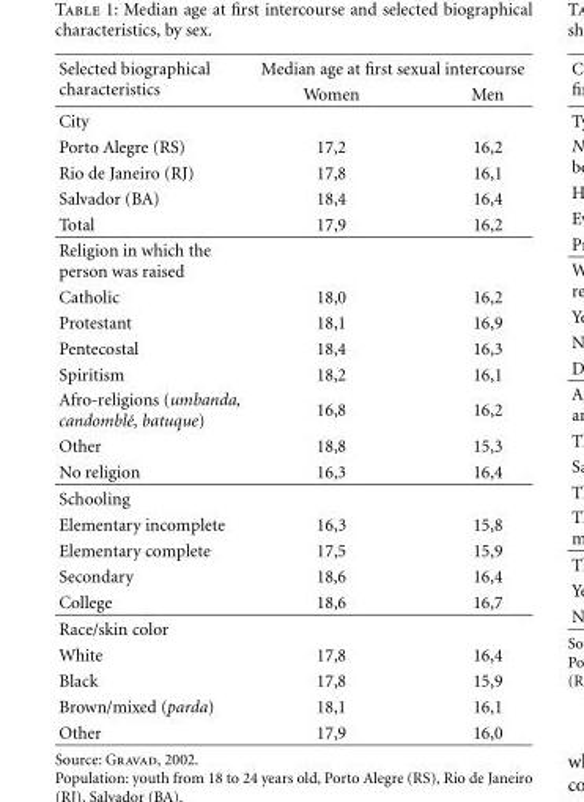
<table><thead><tr><td rowspan="2">Selected biographical characteristics</td><td colspan="2">Median age at first sexual intercourse</td></tr><tr><td>Women</td><td>Men</td></tr></thead><tbody><tr><td colspan="3">City</td></tr><tr><td>Porto Alegre (RS)</td><td>17,2</td><td>16,2</td></tr><tr><td>Rio de Janeiro (RJ)</td><td>17,8</td><td>16,1</td></tr><tr><td>Salvador (BA)</td><td>18,4</td><td>16,4</td></tr><tr><td>Total</td><td>17,9</td><td>16,2</td></tr><tr><td colspan="3">Religion in which the person was raised</td></tr><tr><td>Catholic</td><td>18,0</td><td>16,2</td></tr><tr><td>Protestant</td><td>18,1</td><td>16,9</td></tr><tr><td>Pentecostal</td><td>18,4</td><td>16,3</td></tr><tr><td>Spiritism</td><td>18,2</td><td>16,1</td></tr><tr><td>Afro-religions (umbanda, candombl´e, batuque)</td><td>16,8</td><td>16,2</td></tr><tr><td>Other</td><td>18,8</td><td>15,3</td></tr><tr><td>No religion</td><td>16,3</td><td>16,4</td></tr><tr><td colspan="3">Schooling</td></tr><tr><td>Elementary incomplete</td><td>16,3</td><td>15,8</td></tr><tr><td>Elementary complete</td><td>17,5</td><td>15,9</td></tr><tr><td>Secondary</td><td>18,6</td><td>16,4</td></tr><tr><td>College</td><td>18,6</td><td>16,7</td></tr><tr><td colspan="3">Race/skin color</td></tr><tr><td>White</td><td>17,8</td><td>16,4</td></tr><tr><td>Black</td><td>17,8</td><td>15,9</td></tr><tr><td>Brown/mixed (parda)</td><td>18,1</td><td>16,1</td></tr><tr><td>Other</td><td>17,9</td><td>16,0</td></tr></tbody></table>